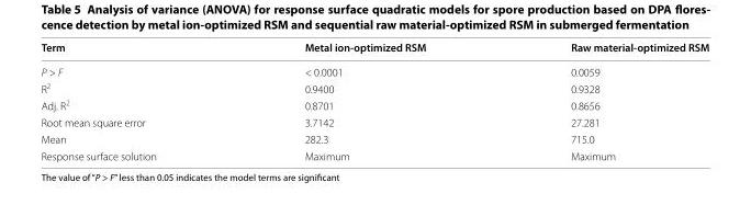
<table><thead><tr><td>Term</td><td>Metal ion-optimized RSM</td><td>Raw material-optimized RSM</td></tr></thead><tbody><tr><td>P &gt; F</td><td>&lt; 0.0001</td><td>0.0059</td></tr><tr><td>R<sup>2</sup></td><td>0.9400</td><td>0.9328</td></tr><tr><td>Adj. R<sup>2</sup></td><td>0.8701</td><td>0.8656</td></tr><tr><td>Root mean square error</td><td>3.7142</td><td>27.281</td></tr><tr><td>Mean</td><td>282.3</td><td>715.0</td></tr><tr><td>Response surface solution</td><td>Maximum</td><td>Maximum</td></tr></tbody></table>